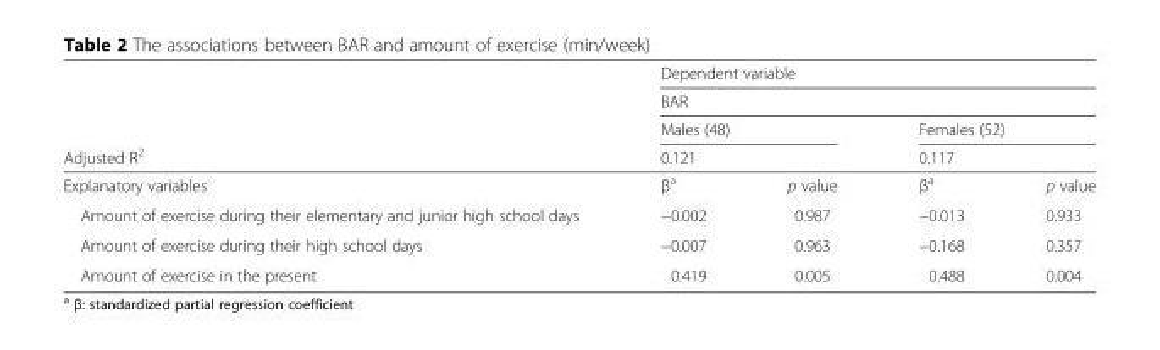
<table><thead><tr><td rowspan="5">Adjusted R<sup>2</sup> Explanatory variables</td><td rowspan="2" colspan="4">Dependent variable BAR</td></tr><tr></tr><tr><td rowspan="2" colspan="2">Males (48) 0.121</td><td rowspan="2" colspan="2">Females (52) 0.117</td></tr><tr></tr><tr><td>β<sup>a</sup></td><td>p value</td><td>β<sup>a</sup></td><td>p value</td></tr></thead><tbody><tr><td>Amount of exercise during their elementary and junior high school days</td><td>−0.002</td><td>0.987</td><td>−0.013</td><td>0.933</td></tr><tr><td>Amount of exercise during their high school days</td><td>−0.007</td><td>0.963</td><td>−0.168</td><td>0.357</td></tr><tr><td>Amount of exercise in the present</td><td>0.419</td><td>0.005</td><td>0.488</td><td>0.004</td></tr></tbody></table>